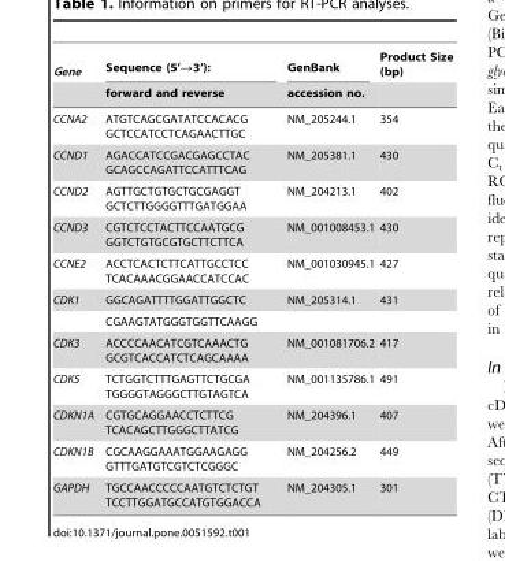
<table><thead><tr><td rowspan="2">Gene</td><td rowspan="2">Sequence (5’→3’): forward and reverse</td><td rowspan="2">GenBank accession no.</td><td rowspan="2">Product Size (bp)</td></tr><tr></tr></thead><tbody><tr><td>CCNA2</td><td>ATGTCAGCGATATCCACACG GCTCCATCCTCAGAACTTGC</td><td>NM_205244.1</td><td>354</td></tr><tr><td>CCND1</td><td>AGACCATCCGACGAGCCTAC GCAGCCAGATTCCATTTCAG</td><td>NM_205381.1</td><td>430</td></tr><tr><td>CCND2</td><td>AGTTGCTGTGCTGCGAGGT GCTCTTGGGGTTTGATGGAA</td><td>NM_204213.1</td><td>402</td></tr><tr><td>CCND3</td><td>CGTCTCCTACTTCCAATGCG GGTCTGTGCGTGCTTCTTCA</td><td>NM_001008453.1</td><td>430</td></tr><tr><td>CCNE2</td><td>ACCTCACTCTTCATTGCCTCC TCACAAACGGAACCATCCAC</td><td>NM_001030945.1</td><td>427</td></tr><tr><td rowspan="2">CDK1</td><td>GGCAGATTTTGGATTGGCTC</td><td>NM_205314.1</td><td>431</td></tr><tr><td>CGAAGTATGGGTGGTTCAAGG</td><td></td><td></td></tr><tr><td>CDK3</td><td>ACCCCAACATCGTCAAACTG GCGTCACCATCTCAGCAAAA</td><td>NM_001081706.2</td><td>417</td></tr><tr><td>CDK5</td><td>TCTGGTCTTTGAGTTCTGCGA TGGGGTAGGGCTTGTAGTCA</td><td>NM_001135786.1</td><td>491</td></tr><tr><td>CDKN1A</td><td>CGTGCAGGAACCTCTTCG TCACAGCTTGGGCTTATCG</td><td>NM_204396.1</td><td>407</td></tr><tr><td>CDKN1B</td><td>CGCAAGGAAATGGAAGAGG GTTTGATGTCGTCTCGGGC</td><td>NM_204256.2</td><td>449</td></tr><tr><td>GAPDH</td><td>TGCCAACCCCCAATGTCTCTGT TCCTTGGATGCCATGTGGACCA</td><td>NM_204305.1</td><td>301</td></tr></tbody></table>